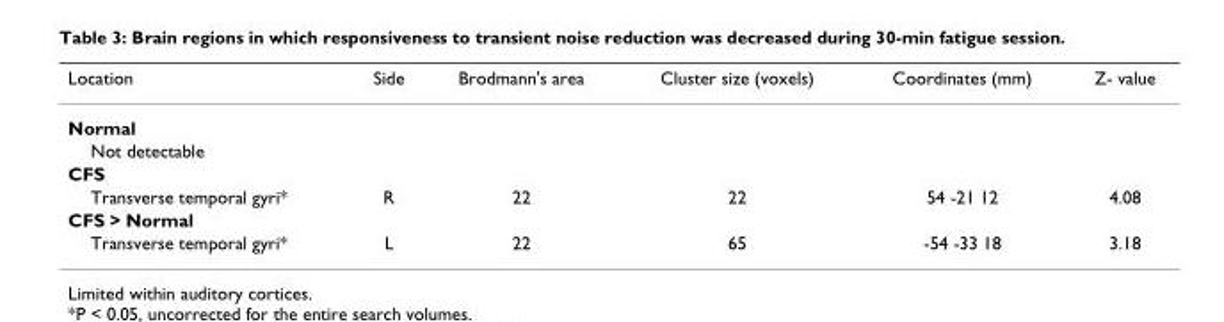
<table><thead><tr><td>Location</td><td>Side</td><td>Brodmann&#x27;s area</td><td>Cluster size (voxels)</td><td>Coordinates (mm)</td><td>Z- value</td></tr></thead><tbody><tr><td colspan="6">Normal</td></tr><tr><td colspan="6">Not detectable</td></tr><tr><td colspan="6">CFS</td></tr><tr><td>Transverse temporal gyri*</td><td>R</td><td>22</td><td>22</td><td>54 -21 12</td><td>4.08</td></tr><tr><td colspan="6">CFS &gt; Normal</td></tr><tr><td>Transverse temporal gyri*</td><td>L</td><td>22</td><td>65</td><td>-54 -33 18</td><td>3.18</td></tr></tbody></table>